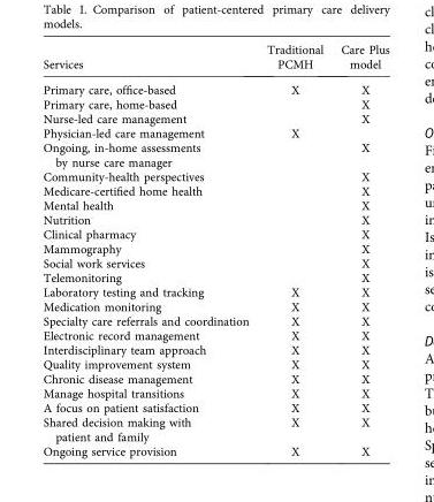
<table><thead><tr><td>Services</td><td>Traditional PCMH</td><td>Care Plus model</td></tr></thead><tbody><tr><td>Primary care, office-based</td><td>X</td><td>X</td></tr><tr><td>Primary care, home-based</td><td></td><td>X</td></tr><tr><td>Nurse-led care management</td><td></td><td>X</td></tr><tr><td>Physician-led care management</td><td>X</td><td></td></tr><tr><td>Ongoing, in-home assessments by nurse care manager</td><td></td><td>X</td></tr><tr><td>Community-health perspectives</td><td></td><td>X</td></tr><tr><td>Medicare-certified home health</td><td></td><td>X</td></tr><tr><td>Mental health</td><td></td><td>X</td></tr><tr><td>Nutrition</td><td></td><td>X</td></tr><tr><td>Clinical pharmacy</td><td></td><td>X</td></tr><tr><td>Mammography</td><td></td><td>X</td></tr><tr><td>Social work services</td><td></td><td>X</td></tr><tr><td>Telemonitoring</td><td></td><td>X</td></tr><tr><td>Laboratory testing and tracking</td><td>X</td><td>X</td></tr><tr><td>Medication monitoring</td><td>X</td><td>X</td></tr><tr><td>Specialty care referrals and coordination</td><td>X</td><td>X</td></tr><tr><td>Electronic record management</td><td>X</td><td>X</td></tr><tr><td>Interdisciplinary team approach</td><td>X</td><td>X</td></tr><tr><td>Quality improvement system</td><td>X</td><td>X</td></tr><tr><td>Chronic disease management</td><td>X</td><td>X</td></tr><tr><td>Manage hospital transitions</td><td>X</td><td>X</td></tr><tr><td>A focus on patient satisfaction</td><td>X</td><td>X</td></tr><tr><td>Shared decision making with patient and family</td><td>X</td><td>X</td></tr><tr><td>Ongoing service provision</td><td>X</td><td>X</td></tr></tbody></table>